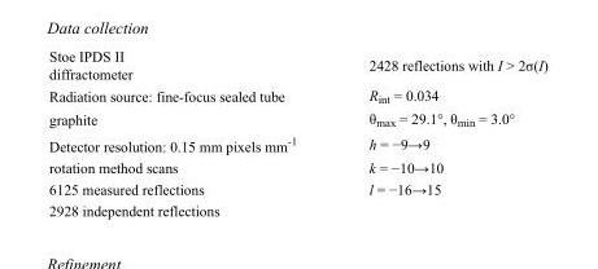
<table><tbody><tr><td>Stoe IPDS II diffractometer</td><td>2428 reflections with I &gt; 2σ(I)</td></tr><tr><td>Radiation source: fine-focus sealed tube</td><td>R<sub>int</sub> = 0.034</td></tr><tr><td>graphite</td><td>θ<sub>max</sub> = 29.1°, θ<sub>min</sub> = 3.0°</td></tr><tr><td>Detector resolution: 0.15 mm pixels mm<sup>-1</sup></td><td>h = −9→9</td></tr><tr><td>rotation method scans</td><td>k = −10→10</td></tr><tr><td>6125 measured reflections</td><td>l = −16→15</td></tr><tr><td>2928 independent reflections</td><td></td></tr></tbody></table>